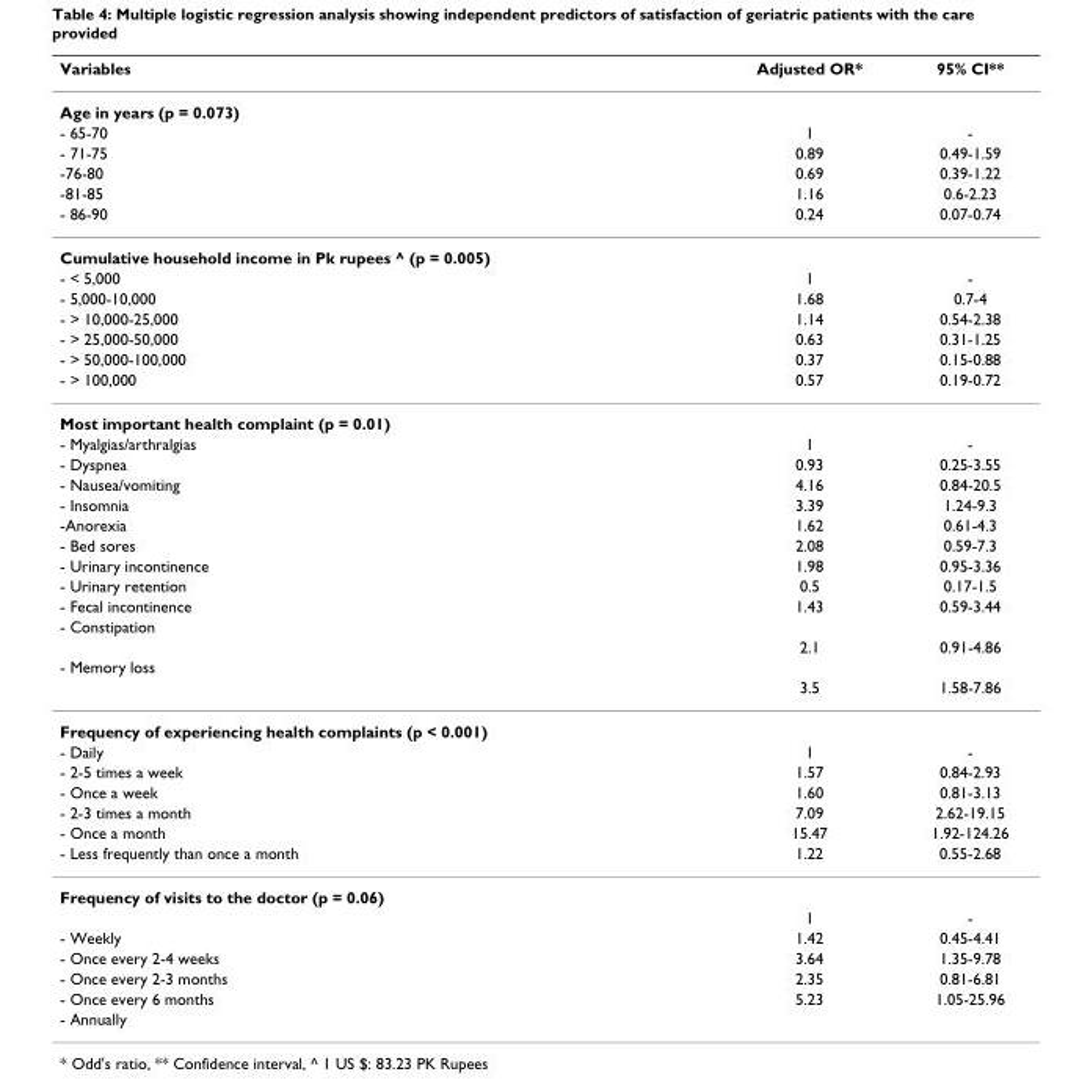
<table><thead><tr><td>Variables</td><td>Adjusted OR*</td><td>95% CI**</td></tr></thead><tbody><tr><td colspan="3">Age in years (p = 0.073)</td></tr><tr><td>- 65-70</td><td>1</td><td>-</td></tr><tr><td>- 71-75</td><td>0.89</td><td>0.49-1.59</td></tr><tr><td>-76-80</td><td>0.69</td><td>0.39-1.22</td></tr><tr><td>-81-85</td><td>1.16</td><td>0.6-2.23</td></tr><tr><td>- 86-90</td><td>0.24</td><td>0.07-0.74</td></tr><tr><td colspan="3">Cumulative household income in Pk rupees ^ (p = 0.005)</td></tr><tr><td>- &lt; 5,000</td><td>1</td><td>-</td></tr><tr><td>- 5,000-10,000</td><td>1.68</td><td>0.7-4</td></tr><tr><td>- &gt; 10,000-25,000</td><td>1.14</td><td>0.54-2.38</td></tr><tr><td>- &gt; 25,000-50,000</td><td>0.63</td><td>0.31-1.25</td></tr><tr><td>- &gt; 50,000-100,000</td><td>0.37</td><td>0.15-0.88</td></tr><tr><td>- &gt; 100,000</td><td>0.57</td><td>0.19-0.72</td></tr><tr><td colspan="3">Most important health complaint (p = 0.01)</td></tr><tr><td>- Myalgias/arthralgias</td><td>1</td><td>-</td></tr><tr><td>- Dyspnea</td><td>0.93</td><td>0.25-3.55</td></tr><tr><td>- Nausea/vomiting</td><td>4.16</td><td>0.84-20.5</td></tr><tr><td>- Insomnia</td><td>3.39</td><td>1.24-9.3</td></tr><tr><td>-Anorexia</td><td>1.62</td><td>0.61-4.3</td></tr><tr><td>- Bed sores</td><td>2.08</td><td>0.59-7.3</td></tr><tr><td>- Urinary incontinence</td><td>1.98</td><td>0.95-3.36</td></tr><tr><td>- Urinary retention</td><td>0.5</td><td>0.17-1.5</td></tr><tr><td>- Fecal incontinence</td><td>1.43</td><td>0.59-3.44</td></tr><tr><td colspan="3">- Constipation</td></tr><tr><td></td><td>2.1</td><td>0.91-4.86</td></tr><tr><td colspan="3">- Memory loss</td></tr><tr><td></td><td>3.5</td><td>1.58-7.86</td></tr><tr><td colspan="3">Frequency of experiencing health complaints (p &lt; 0.001)</td></tr><tr><td>- Daily</td><td>1</td><td>-</td></tr><tr><td>- 2-5 times a week</td><td>1.57</td><td>0.84-2.93</td></tr><tr><td>- Once a week</td><td>1.60</td><td>0.81-3.13</td></tr><tr><td>- 2-3 times a month</td><td>7.09</td><td>2.62-19.15</td></tr><tr><td>- Once a month</td><td>15.47</td><td>1.92-124.26</td></tr><tr><td>- Less frequently than once a month</td><td>1.22</td><td>0.55-2.68</td></tr><tr><td colspan="3">Frequency of visits to the doctor (p = 0.06)</td></tr><tr><td></td><td>1</td><td>-</td></tr><tr><td>- Weekly</td><td>1.42</td><td>0.45-4.41</td></tr><tr><td>- Once every 2-4 weeks</td><td>3.64</td><td>1.35-9.78</td></tr><tr><td>- Once every 2-3 months</td><td>2.35</td><td>0.81-6.81</td></tr><tr><td>- Once every 6 months</td><td>5.23</td><td>1.05-25.96</td></tr><tr><td>- Annually</td><td></td><td></td></tr></tbody></table>